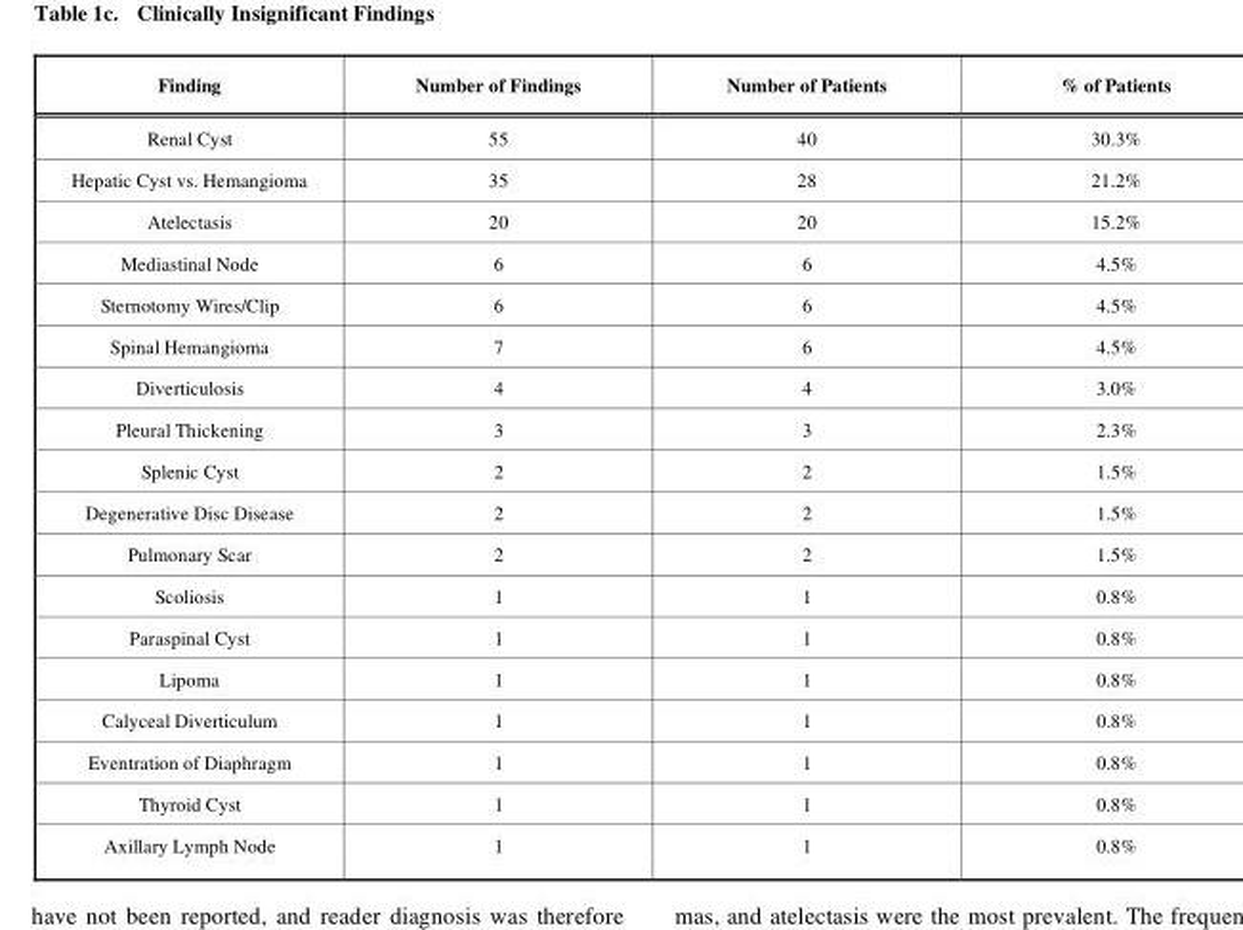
<table><tbody><tr><td>Finding</td><td>Number of Findings</td><td>Number of Patients</td><td>% of Patients</td></tr><tr><td>Renal Cyst</td><td>55</td><td>40</td><td>30.3%</td></tr><tr><td>Hepatic Cyst vs. Hemangioma</td><td>35</td><td>28</td><td>21.2%</td></tr><tr><td>Atelectasis</td><td>20</td><td>20</td><td>15.2%</td></tr><tr><td>Mediastinal Node</td><td>6</td><td>6</td><td>4.5%</td></tr><tr><td>Sternotomy Wires/Clip</td><td>6</td><td>6</td><td>4.5%</td></tr><tr><td>Spinal Hemangioma</td><td>7</td><td>6</td><td>4.5%</td></tr><tr><td>Diverticulosis</td><td>4</td><td>4</td><td>3.0%</td></tr><tr><td>Pleural Thickening</td><td>3</td><td>3</td><td>2.3%</td></tr><tr><td>Splenic Cyst</td><td>2</td><td>2</td><td>1.5%</td></tr><tr><td>Degenerative Disc Disease</td><td>2</td><td>2</td><td>1.5%</td></tr><tr><td>Pulmonary Scar</td><td>2</td><td>2</td><td>1.5%</td></tr><tr><td>Scoliosis</td><td>1</td><td>1</td><td>0.8%</td></tr><tr><td>Paraspinal Cyst</td><td>1</td><td>1</td><td>0.8%</td></tr><tr><td>Lipoma</td><td>1</td><td>1</td><td>0.8%</td></tr><tr><td>Calyceal Diverticulum</td><td>1</td><td>1</td><td>0.8%</td></tr><tr><td>Eventration of Diaphragm</td><td>1</td><td>1</td><td>0.8%</td></tr><tr><td>Thyroid Cyst</td><td>1</td><td>1</td><td>0.8%</td></tr><tr><td>Axillary Lymph Node</td><td>1</td><td>1</td><td>0.8%</td></tr></tbody></table>